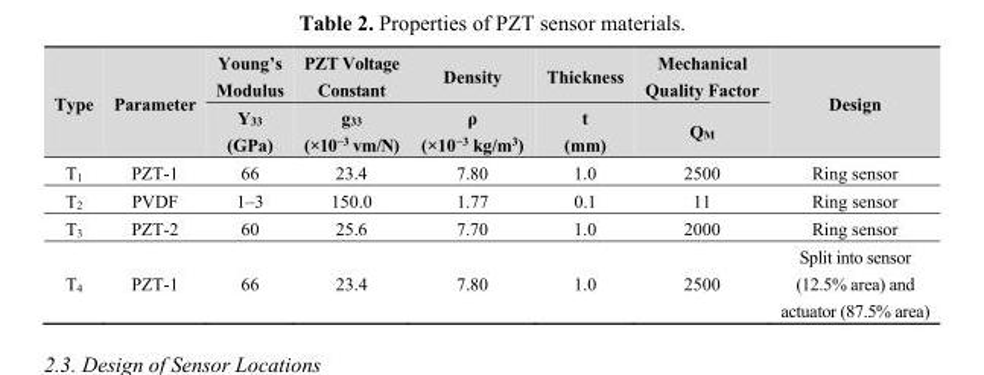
<table><thead><tr><td rowspan="2">Type</td><td rowspan="2">Parameter</td><td rowspan="2">Young’s Modulus Y<sub>33</sub> (GPa)</td><td rowspan="2">PZT Voltage Constant g<sub>33</sub> (×10<sup>−3</sup> vm/N)</td><td rowspan="2">Density ρ (×10<sup>−3</sup> kg/m<sup>3</sup>)</td><td rowspan="2">Thickness t (mm)</td><td rowspan="2">Mechanical Quality Factor Q<sub>M</sub></td><td rowspan="2">Design</td></tr><tr></tr></thead><tbody><tr><td>T<sub>1</sub></td><td>PZT-1</td><td>66</td><td>23.4</td><td>7.80</td><td>1.0</td><td>2500</td><td>Ring sensor</td></tr><tr><td>T<sub>2</sub></td><td>PVDF</td><td>1–3</td><td>150.0</td><td>1.77</td><td>0.1</td><td>11</td><td>Ring sensor</td></tr><tr><td>T<sub>3</sub></td><td>PZT-2</td><td>60</td><td>25.6</td><td>7.70</td><td>1.0</td><td>2000</td><td>Ring sensor</td></tr><tr><td>T<sub>4</sub></td><td>PZT-1</td><td>66</td><td>23.4</td><td>7.80</td><td>1.0</td><td>2500</td><td>Split into sensor (12.5% area) and actuator (87.5% area)</td></tr></tbody></table>